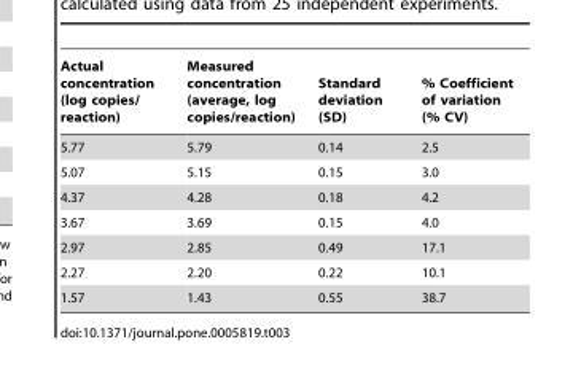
<table><thead><tr><td>Actual concentration (log copies/ reaction)</td><td>Measured concentration (average, log copies/reaction)</td><td>Standard deviation (SD)</td><td>% Coefficient of variation (% CV)</td></tr></thead><tbody><tr><td>5.77</td><td>5.79</td><td>0.14</td><td>2.5</td></tr><tr><td>5.07</td><td>5.15</td><td>0.15</td><td>3.0</td></tr><tr><td>4.37</td><td>4.28</td><td>0.18</td><td>4.2</td></tr><tr><td>3.67</td><td>3.69</td><td>0.15</td><td>4.0</td></tr><tr><td>2.97</td><td>2.85</td><td>0.49</td><td>17.1</td></tr><tr><td>2.27</td><td>2.20</td><td>0.22</td><td>10.1</td></tr><tr><td>1.57</td><td>1.43</td><td>0.55</td><td>38.7</td></tr></tbody></table>